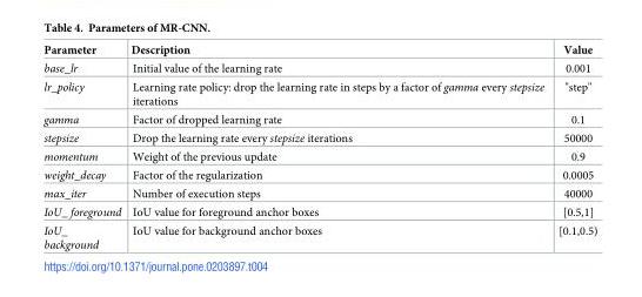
<table><thead><tr><td>Parameter</td><td>Description</td><td>Value</td></tr></thead><tbody><tr><td>base_lr</td><td>Initial value of the learning rate</td><td>0.001</td></tr><tr><td>lr_policy</td><td>Learning rate policy: drop the learning rate in steps by a factor of gamma every stepsize iterations</td><td>&quot;step&quot;</td></tr><tr><td>gamma</td><td>Factor of dropped learning rate</td><td>0.1</td></tr><tr><td>stepsize</td><td>Drop the learning rate every stepsize iterations</td><td>50000</td></tr><tr><td>momentum</td><td>Weight of the previous update</td><td>0.9</td></tr><tr><td>weight_decay</td><td>Factor of the regularization</td><td>0.0005</td></tr><tr><td>max_iter</td><td>Number of execution steps</td><td>40000</td></tr><tr><td>IoU_ foreground</td><td>IoU value for foreground anchor boxes</td><td>[0.5,1]</td></tr><tr><td>IoU_ background</td><td>IoU value for background anchor boxes</td><td>[0.1,0.5)</td></tr></tbody></table>